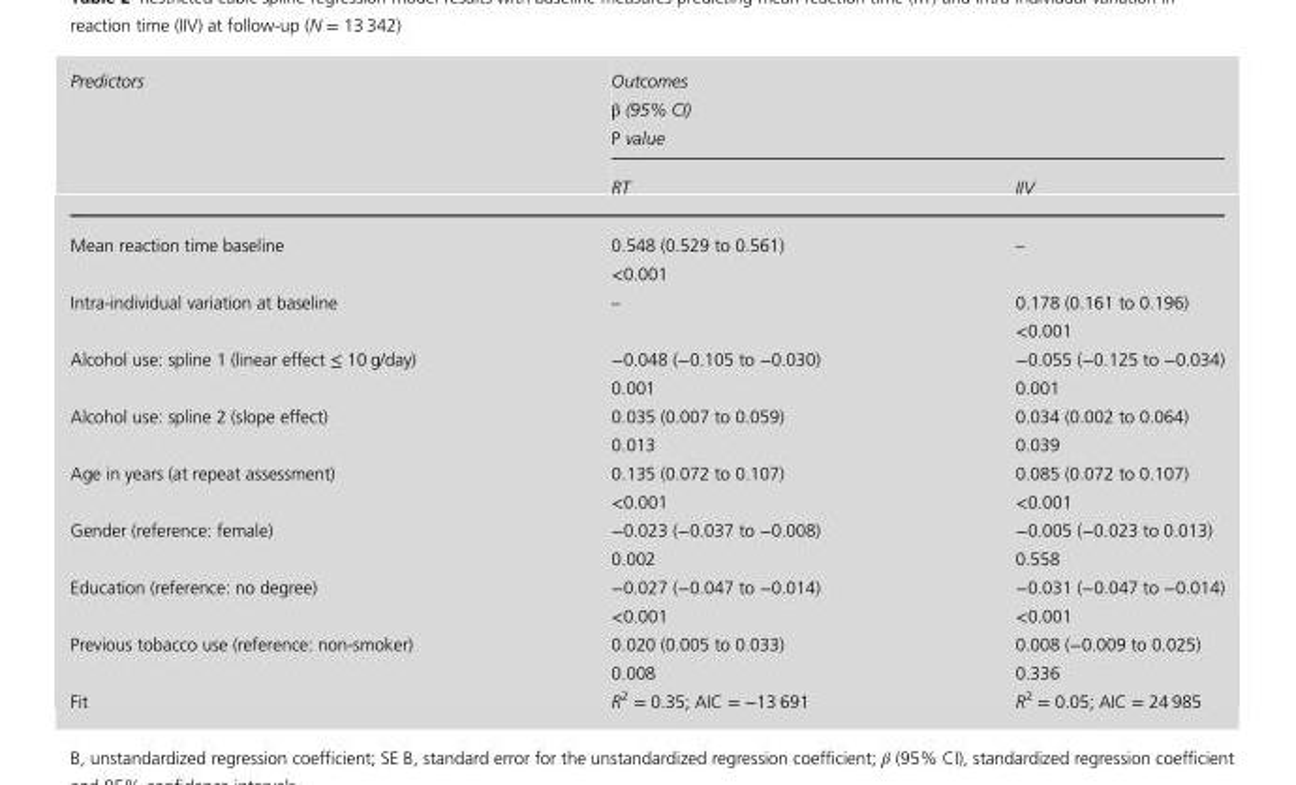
<table><thead><tr><td rowspan="2">Predictors</td><td colspan="2">Outcomes β (95% CI) P value</td></tr><tr><td>RT</td><td>IIV</td></tr></thead><tbody><tr><td>Mean reaction time baseline</td><td>0.548 (0.529 to 0.561) &lt;0.001</td><td>–</td></tr><tr><td>Intra-individual variation at baseline</td><td>–</td><td>0.178 (0.161 to 0.196) &lt;0.001</td></tr><tr><td>Alcohol use: spline 1 (linear effect ≤ 10 g/day)</td><td>−0.048 (−0.105 to −0.030) 0.001</td><td>−0.055 (−0.125 to −0.034) 0.001</td></tr><tr><td>Alcohol use: spline 2 (slope effect)</td><td>0.035 (0.007 to 0.059) 0.013</td><td>0.034 (0.002 to 0.064) 0.039</td></tr><tr><td>Age in years (at repeat assessment)</td><td>0.135 (0.072 to 0.107) &lt;0.001</td><td>0.085 (0.072 to 0.107) &lt;0.001</td></tr><tr><td>Gender (reference: female)</td><td>−0.023 (−0.037 to −0.008) 0.002</td><td>−0.005 (−0.023 to 0.013) 0.558</td></tr><tr><td>Education (reference: no degree)</td><td>−0.027 (−0.047 to −0.014) &lt;0.001</td><td>−0.031 (−0.047 to −0.014) &lt;0.001</td></tr><tr><td>Previous tobacco use (reference: non-smoker)</td><td>0.020 (0.005 to 0.033) 0.008</td><td>0.008 (−0.009 to 0.025) 0.336</td></tr><tr><td>Fit</td><td>R<sup>2</sup> = 0.35; AIC = −13 691</td><td>R<sup>2</sup> = 0.05; AIC = 24 985</td></tr></tbody></table>